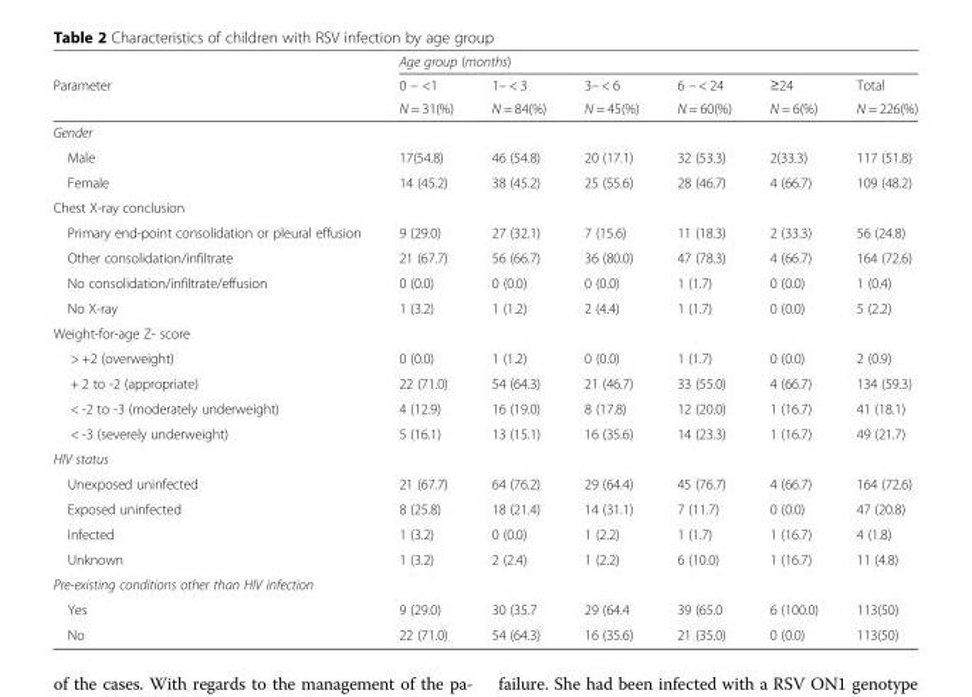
<table><thead><tr><td rowspan="3">Parameter</td><td colspan="6">Age group (months)</td></tr><tr><td rowspan="2">0 – &lt;1 N = 31(%)</td><td rowspan="2">1– &lt; 3 N = 84(%)</td><td rowspan="2">3– &lt; 6 N = 45(%)</td><td rowspan="2">6 – &lt; 24 N = 60(%)</td><td rowspan="2">≥24 N = 6(%)</td><td rowspan="2">Total N = 226(%)</td></tr><tr></tr></thead><tbody><tr><td colspan="7">Gender</td></tr><tr><td>Male</td><td>17(54.8)</td><td>46 (54.8)</td><td>20 (17.1)</td><td>32 (53.3)</td><td>2(33.3)</td><td>117 (51.8)</td></tr><tr><td>Female</td><td>14 (45.2)</td><td>38 (45.2)</td><td>25 (55.6)</td><td>28 (46.7)</td><td>4 (66.7)</td><td>109 (48.2)</td></tr><tr><td colspan="7">Chest X-ray conclusion</td></tr><tr><td>Primary end-point consolidation or pleural effusion</td><td>9 (29.0)</td><td>27 (32.1)</td><td>7 (15.6)</td><td>11 (18.3)</td><td>2 (33.3)</td><td>56 (24.8)</td></tr><tr><td>Other consolidation/infiltrate</td><td>21 (67.7)</td><td>56 (66.7)</td><td>36 (80.0)</td><td>47 (78.3)</td><td>4 (66.7)</td><td>164 (72.6)</td></tr><tr><td>No consolidation/infiltrate/effusion</td><td>0 (0.0)</td><td>0 (0.0)</td><td>0 (0.0)</td><td>1 (1.7)</td><td>0 (0.0)</td><td>1 (0.4)</td></tr><tr><td>No X-ray</td><td>1 (3.2)</td><td>1 (1.2)</td><td>2 (4.4)</td><td>1 (1.7)</td><td>0 (0.0)</td><td>5 (2.2)</td></tr><tr><td colspan="7">Weight-for-age Z- score</td></tr><tr><td>&gt; +2 (overweight)</td><td>0 (0.0)</td><td>1 (1.2)</td><td>0 (0.0)</td><td>1 (1.7)</td><td>0 (0.0)</td><td>2 (0.9)</td></tr><tr><td>+ 2 to -2 (appropriate)</td><td>22 (71.0)</td><td>54 (64.3)</td><td>21 (46.7)</td><td>33 (55.0)</td><td>4 (66.7)</td><td>134 (59.3)</td></tr><tr><td>&lt; -2 to -3 (moderately underweight)</td><td>4 (12.9)</td><td>16 (19.0)</td><td>8 (17.8)</td><td>12 (20.0)</td><td>1 (16.7)</td><td>41 (18.1)</td></tr><tr><td>&lt; -3 (severely underweight)</td><td>5 (16.1)</td><td>13 (15.1)</td><td>16 (35.6)</td><td>14 (23.3)</td><td>1 (16.7)</td><td>49 (21.7)</td></tr><tr><td colspan="7">HIV status</td></tr><tr><td>Unexposed uninfected</td><td>21 (67.7)</td><td>64 (76.2)</td><td>29 (64.4)</td><td>45 (76.7)</td><td>4 (66.7)</td><td>164 (72.6)</td></tr><tr><td>Exposed uninfected</td><td>8 (25.8)</td><td>18 (21.4)</td><td>14 (31.1)</td><td>7 (11.7)</td><td>0 (0.0)</td><td>47 (20.8)</td></tr><tr><td>Infected</td><td>1 (3.2)</td><td>0 (0.0)</td><td>1 (2.2)</td><td>1 (1.7)</td><td>1 (16.7)</td><td>4 (1.8)</td></tr><tr><td>Unknown</td><td>1 (3.2)</td><td>2 (2.4)</td><td>1 (2.2)</td><td>6 (10.0)</td><td>1 (16.7)</td><td>11 (4.8)</td></tr><tr><td colspan="7">Pre-existing conditions other than HIV infection</td></tr><tr><td>Yes</td><td>9 (29.0)</td><td>30 (35.7</td><td>29 (64.4</td><td>39 (65.0</td><td>6 (100.0)</td><td>113(50)</td></tr><tr><td>No</td><td>22 (71.0)</td><td>54 (64.3)</td><td>16 (35.6)</td><td>21 (35.0)</td><td>0 (0.0)</td><td>113(50)</td></tr></tbody></table>